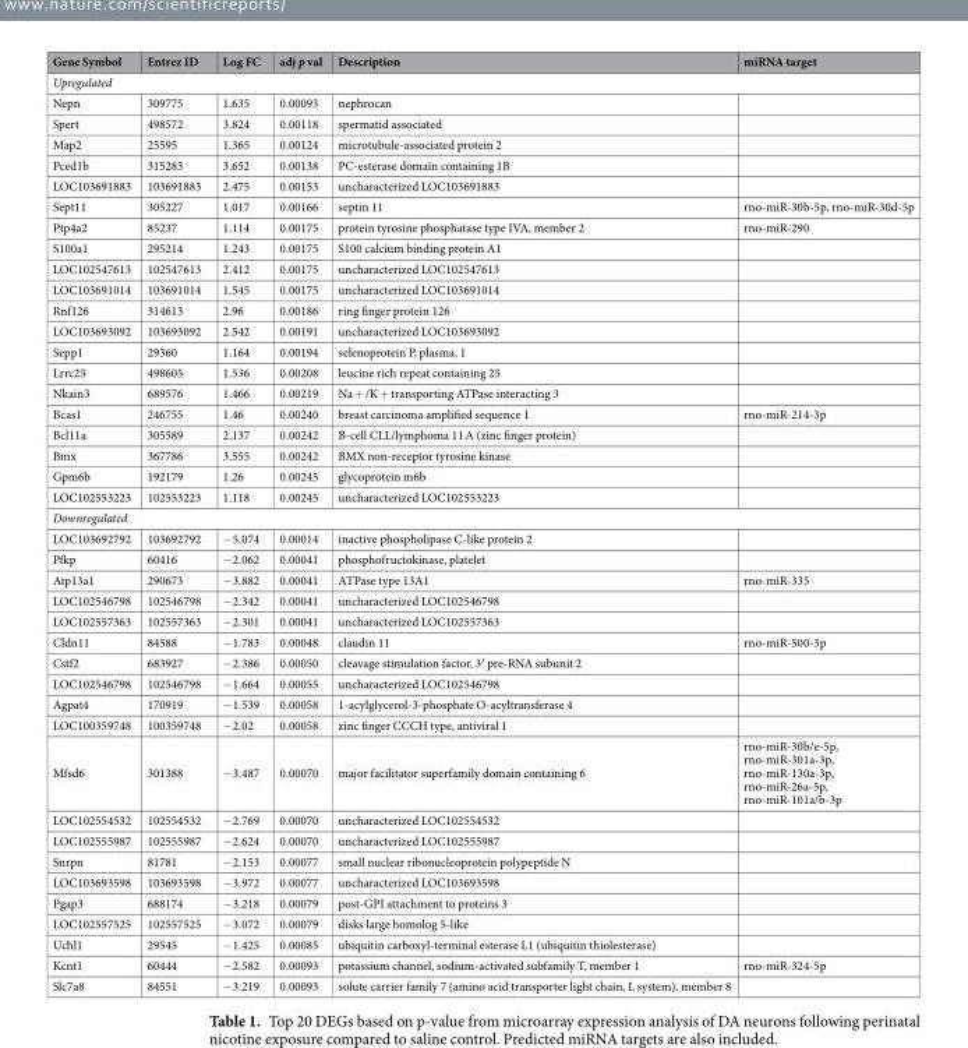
<table><thead><tr><td>Gene Symbol</td><td>Entrez ID</td><td>Log FC</td><td>adj p val</td><td>Description</td><td>miRNA target</td></tr></thead><tbody><tr><td colspan="6">Upregulated</td></tr><tr><td>Nepn</td><td>309775</td><td>1.635</td><td>0.00093</td><td>nephrocan</td><td></td></tr><tr><td>Spert</td><td>498572</td><td>3.824</td><td>0.00118</td><td>spermatid associated</td><td></td></tr><tr><td>Map2</td><td>25595</td><td>1.365</td><td>0.00124</td><td>microtubule-associated protein 2</td><td></td></tr><tr><td>Pced1b</td><td>315283</td><td>3.652</td><td>0.00138</td><td>PC-esterase domain containing 1B</td><td></td></tr><tr><td>LOC103691883</td><td>103691883</td><td>2.475</td><td>0.00153</td><td>uncharacterized LOC103691883</td><td></td></tr><tr><td>Sept11</td><td>305227</td><td>1.017</td><td>0.00166</td><td>septin 11</td><td>rno-miR-30b-5p, rno-miR-30d-5p</td></tr><tr><td>Ptp4a2</td><td>85237</td><td>1.114</td><td>0.00175</td><td>protein tyrosine phosphatase type IVA, member 2</td><td>rno-miR-290</td></tr><tr><td>S100a1</td><td>295214</td><td>1.243</td><td>0.00175</td><td>S100 calcium binding protein A1</td><td></td></tr><tr><td>LOC102547613</td><td>102547613</td><td>2.412</td><td>0.00175</td><td>uncharacterized LOC102547613</td><td></td></tr><tr><td>LOC103691014</td><td>103691014</td><td>1.545</td><td>0.00175</td><td>uncharacterized LOC103691014</td><td></td></tr><tr><td>Rnf126</td><td>314613</td><td>2.96</td><td>0.00186</td><td>ring finger protein 126</td><td></td></tr><tr><td>LOC103693092</td><td>103693092</td><td>2.542</td><td>0.00191</td><td>uncharacterized LOC103693092</td><td></td></tr><tr><td>Sepp1</td><td>29360</td><td>1.164</td><td>0.00194</td><td>selenoprotein P, plasma, 1</td><td></td></tr><tr><td>Lrrc25</td><td>498605</td><td>1.536</td><td>0.00208</td><td>leucine rich repeat containing 25</td><td></td></tr><tr><td>Nkain3</td><td>689576</td><td>1.466</td><td>0.00219</td><td>Na + /K + transporting ATPase interacting 3</td><td></td></tr><tr><td>Bcas1</td><td>246755</td><td>1.46</td><td>0.00240</td><td>breast carcinoma amplified sequence 1</td><td>rno-miR-214-3p</td></tr><tr><td>Bcl11a</td><td>305589</td><td>2.137</td><td>0.00242</td><td>B-cell CLL/lymphoma 11 A (zinc finger protein)</td><td></td></tr><tr><td>Bmx</td><td>367786</td><td>3.555</td><td>0.00242</td><td>BMX non-receptor tyrosine kinase</td><td></td></tr><tr><td>Gpm6b</td><td>192179</td><td>1.26</td><td>0.00245</td><td>glycoprotein m6b</td><td></td></tr><tr><td>LOC102553223</td><td>102553223</td><td>1.118</td><td>0.00245</td><td>uncharacterized LOC102553223</td><td></td></tr><tr><td colspan="6">Downregulated</td></tr><tr><td>LOC103692792</td><td>103692792</td><td>−5.074</td><td>0.00014</td><td>inactive phospholipase C-like protein 2</td><td></td></tr><tr><td>Pfkp</td><td>60416</td><td>−2.062</td><td>0.00041</td><td>phosphofructokinase, platelet</td><td></td></tr><tr><td>Atp13a1</td><td>290673</td><td>−3.882</td><td>0.00041</td><td>ATPase type 13A1</td><td>rno-miR-335</td></tr><tr><td>LOC102546798</td><td>102546798</td><td>−2.342</td><td>0.00041</td><td>uncharacterized LOC102546798</td><td></td></tr><tr><td>LOC102557363</td><td>102557363</td><td>−2.301</td><td>0.00041</td><td>uncharacterized LOC102557363</td><td></td></tr><tr><td>Cldn11</td><td>84588</td><td>−1.783</td><td>0.00048</td><td>claudin 11</td><td>rno-miR-500-3p</td></tr><tr><td>Cstf2</td><td>683927</td><td>−2.386</td><td>0.00050</td><td>cleavage stimulation factor, 3′ pre-RNA subunit 2</td><td></td></tr><tr><td>LOC102546798</td><td>102546798</td><td>−1.664</td><td>0.00055</td><td>uncharacterized LOC102546798</td><td></td></tr><tr><td>Agpat4</td><td>170919</td><td>−1.539</td><td>0.00058</td><td>1-acylglycerol-3-phosphate O-acyltransferase 4</td><td></td></tr><tr><td>LOC100359748</td><td>100359748</td><td>−2.02</td><td>0.00058</td><td>zinc finger CCCH type, antiviral 1</td><td></td></tr><tr><td>Mfsd6</td><td>301388</td><td>−3.487</td><td>0.00070</td><td>major facilitator superfamily domain containing 6</td><td>rno-miR-30b/e-5p, rno-miR-301a-3p, rno-miR-130a-3p, rno-miR-26a-5p, rno-miR-101a/b-3p</td></tr><tr><td>LOC102554532</td><td>102554532</td><td>−2.769</td><td>0.00070</td><td>uncharacterized LOC102554532</td><td></td></tr><tr><td>LOC102555987</td><td>102555987</td><td>−2.624</td><td>0.00070</td><td>uncharacterized LOC102555987</td><td></td></tr><tr><td>Snrpn</td><td>81781</td><td>−2.153</td><td>0.00077</td><td>small nuclear ribonucleoprotein polypeptide N</td><td></td></tr><tr><td>LOC103693598</td><td>103693598</td><td>−3.972</td><td>0.00077</td><td>uncharacterized LOC103693598</td><td></td></tr><tr><td>Pgap3</td><td>688174</td><td>−3.218</td><td>0.00079</td><td>post-GPI attachment to proteins 3</td><td></td></tr><tr><td>LOC102557525</td><td>102557525</td><td>−3.072</td><td>0.00079</td><td>disks large homolog 5-like</td><td></td></tr><tr><td>Uchl1</td><td>29545</td><td>−1.425</td><td>0.00085</td><td>ubiquitin carboxyl-terminal esterase L1 (ubiquitin thiolesterase)</td><td></td></tr><tr><td>Kcnt1</td><td>60444</td><td>−2.582</td><td>0.00093</td><td>potassium channel, sodium-activated subfamily T, member 1</td><td>rno-miR-324-5p</td></tr><tr><td>Slc7a8</td><td>84551</td><td>−3.219</td><td>0.00093</td><td>solute carrier family 7 (amino acid transporter light chain, L system), member 8</td><td></td></tr></tbody></table>